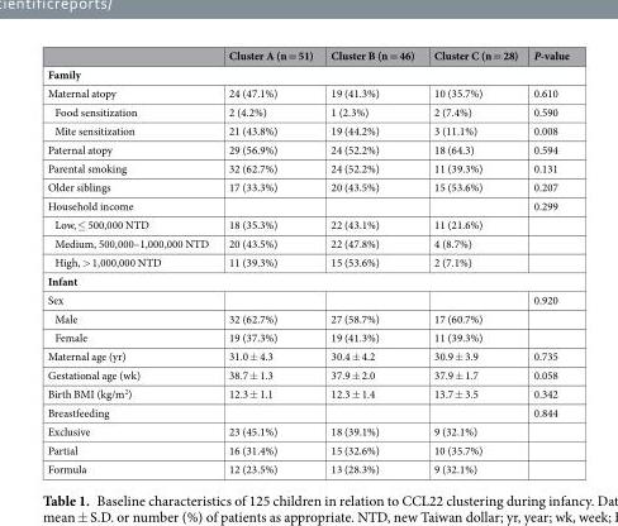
<table><thead><tr><td></td><td>Cluster A (n = 51)</td><td>Cluster B (n = 46)</td><td>Cluster C (n = 28)</td><td>P-value</td></tr></thead><tbody><tr><td colspan="5">Family</td></tr><tr><td>Maternal atopy</td><td>24 (47.1%)</td><td>19 (41.3%)</td><td>10 (35.7%)</td><td>0.610</td></tr><tr><td>Food sensitization</td><td>2 (4.2%)</td><td>1 (2.3%)</td><td>2 (7.4%)</td><td>0.590</td></tr><tr><td>Mite sensitization</td><td>21 (43.8%)</td><td>19 (44.2%)</td><td>3 (11.1%)</td><td>0.008</td></tr><tr><td>Paternal atopy</td><td>29 (56.9%)</td><td>24 (52.2%)</td><td>18 (64.3)</td><td>0.594</td></tr><tr><td>Parental smoking</td><td>32 (62.7%)</td><td>24 (52.2%)</td><td>11 (39.3%)</td><td>0.131</td></tr><tr><td>Older siblings</td><td>17 (33.3%)</td><td>20 (43.5%)</td><td>15 (53.6%)</td><td>0.207</td></tr><tr><td>Household income</td><td></td><td></td><td></td><td>0.299</td></tr><tr><td>Low, ≤ 500,000 NTD</td><td>18 (35.3%)</td><td>22 (43.1%)</td><td>11 (21.6%)</td><td></td></tr><tr><td>Medium, 500,000–1,000,000 NTD</td><td>20 (43.5%)</td><td>22 (47.8%)</td><td>4 (8.7%)</td><td></td></tr><tr><td>High, &gt; 1,000,000 NTD</td><td>11 (39.3%)</td><td>15 (53.6%)</td><td>2 (7.1%)</td><td></td></tr><tr><td colspan="5">Infant</td></tr><tr><td>Sex</td><td></td><td></td><td></td><td>0.920</td></tr><tr><td>Male</td><td>32 (62.7%)</td><td>27 (58.7%)</td><td>17 (60.7%)</td><td></td></tr><tr><td>Female</td><td>19 (37.3%)</td><td>19 (41.3%)</td><td>11 (39.3%)</td><td></td></tr><tr><td>Maternal age (yr)</td><td>31.0 ± 4.3</td><td>30.4 ± 4.2</td><td>30.9 ± 3.9</td><td>0.735</td></tr><tr><td>Gestational age (wk)</td><td>38.7 ± 1.3</td><td>37.9 ± 2.0</td><td>37.9 ± 1.7</td><td>0.058</td></tr><tr><td>Birth BMI (kg/m<sup>2</sup>)</td><td>12.3 ± 1.1</td><td>12.3 ± 1.4</td><td>13.7 ± 3.5</td><td>0.342</td></tr><tr><td>Breastfeeding</td><td></td><td></td><td></td><td>0.844</td></tr><tr><td>Exclusive</td><td>23 (45.1%)</td><td>18 (39.1%)</td><td>9 (32.1%)</td><td></td></tr><tr><td>Partial</td><td>16 (31.4%)</td><td>15 (32.6%)</td><td>10 (35.7%)</td><td></td></tr><tr><td>Formula</td><td>12 (23.5%)</td><td>13 (28.3%)</td><td>9 (32.1%)</td><td></td></tr></tbody></table>